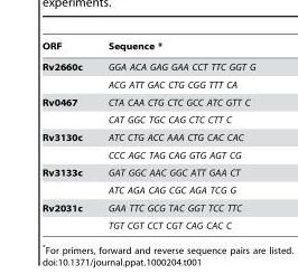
<table><thead><tr><td>ORF</td><td>Sequence *</td></tr></thead><tbody><tr><td rowspan="2">Rv2660c</td><td>GGA ACA GAG GAA CCT TTC GGT G</td></tr><tr><td>ACG ATT GAC CTG CGG TTT CA</td></tr><tr><td rowspan="2">Rv0467</td><td>CTA CAA CTG CTC GCC ATC GTT C</td></tr><tr><td>CAT GGC TGC CAG CTC CTT C</td></tr><tr><td rowspan="2">Rv3130c</td><td>ATC CTG ACC AAA CTG CAC CAC</td></tr><tr><td>CCC AGC TAG CAG GTG AGT CG</td></tr><tr><td rowspan="2">Rv3133c</td><td>GAT GGC AAC GGC ATT GAA CT</td></tr><tr><td>ATC AGA CAG CGC AGA TCG G</td></tr><tr><td rowspan="2">Rv2031c</td><td>GAA TTC GCG TAC GGT TCC TTC</td></tr><tr><td>TGT CGT CCT CGT CAG CAC C</td></tr></tbody></table>